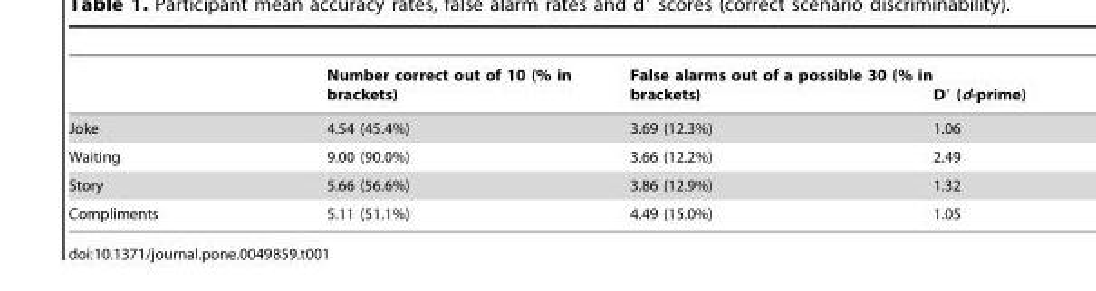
<table><thead><tr><td></td><td>Number correct out of 10 (% in brackets)</td><td>False alarms out of a possible 30 (% in brackets)</td><td>D′ (d-prime)</td></tr></thead><tbody><tr><td>Joke</td><td>4.54 (45.4%)</td><td>3.69 (12.3%)</td><td>1.06</td></tr><tr><td>Waiting</td><td>9.00 (90.0%)</td><td>3.66 (12.2%)</td><td>2.49</td></tr><tr><td>Story</td><td>5.66 (56.6%)</td><td>3.86 (12.9%)</td><td>1.32</td></tr><tr><td>Compliments</td><td>5.11 (51.1%)</td><td>4.49 (15.0%)</td><td>1.05</td></tr></tbody></table>